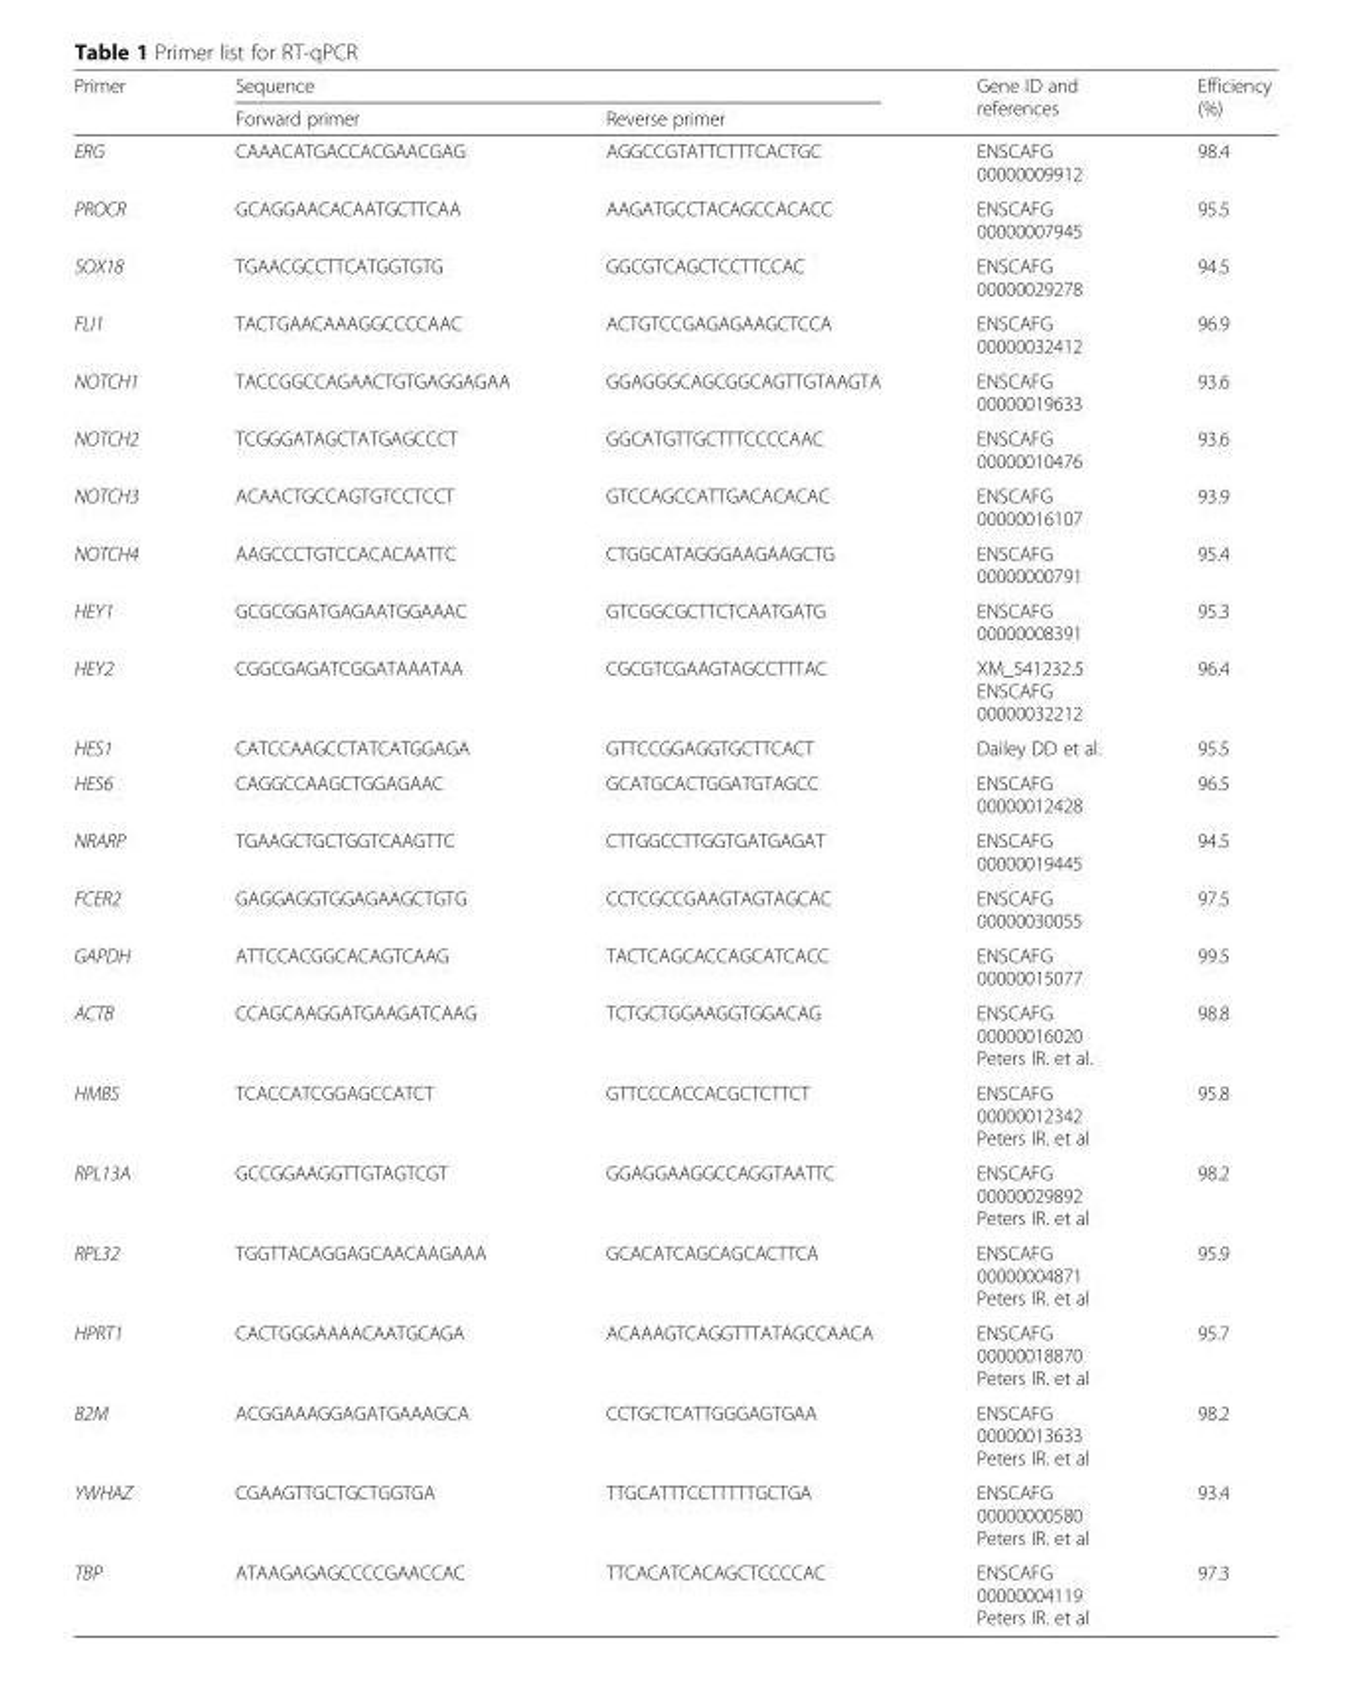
<table><thead><tr><td rowspan="2">Primer</td><td colspan="2">Sequence</td><td rowspan="2">Gene ID and references</td><td rowspan="2">Efficiency (%)</td></tr><tr><td>Forward primer</td><td>Reverse primer</td></tr></thead><tbody><tr><td>ERG</td><td>CAAACATGACCACGAACGAG</td><td>AGGCCGTATTCTTTCACTGC</td><td>ENSCAFG 00000009912</td><td>98.4</td></tr><tr><td>PROCR</td><td>GCAGGAACACAATGCTTCAA</td><td>AAGATGCCTACAGCCACACC</td><td>ENSCAFG 00000007945</td><td>95.5</td></tr><tr><td>SOX18</td><td>TGAACGCCTTCATGGTGTG</td><td>GGCGTCAGCTCCTTCCAC</td><td>ENSCAFG 00000029278</td><td>94.5</td></tr><tr><td>FLI1</td><td>TACTGAACAAAGGCCCCAAC</td><td>ACTGTCCGAGAGAAGCTCCA</td><td>ENSCAFG 00000032412</td><td>96.9</td></tr><tr><td>NOTCH1</td><td>TACCGGCCAGAACTGTGAGGAGAA</td><td>GGAGGGCAGCGGCAGTTGTAAGTA</td><td>ENSCAFG 00000019633</td><td>93.6</td></tr><tr><td>NOTCH2</td><td>TCGGGATAGCTATGAGCCCT</td><td>GGCATGTTGCTTTCCCCAAC</td><td>ENSCAFG 00000010476</td><td>93.6</td></tr><tr><td>NOTCH3</td><td>ACAACTGCCAGTGTCCTCCT</td><td>GTCCAGCCATTGACACACAC</td><td>ENSCAFG 00000016107</td><td>93.9</td></tr><tr><td>NOTCH4</td><td>AAGCCCTGTCCACACAATTC</td><td>CTGGCATAGGGAAGAAGCTG</td><td>ENSCAFG 00000000791</td><td>95.4</td></tr><tr><td>HEY1</td><td>GCGCGGATGAGAATGGAAAC</td><td>GTCGGCGCTTCTCAATGATG</td><td>ENSCAFG 00000008391</td><td>95.3</td></tr><tr><td>HEY2</td><td>CGGCGAGATCGGATAAATAA</td><td>CGCGTCGAAGTAGCCTTTAC</td><td>XM_541232.5 ENSCAFG 00000032212</td><td>96.4</td></tr><tr><td>HES1</td><td>CATCCAAGCCTATCATGGAGA</td><td>GTTCCGGAGGTGCTTCACT</td><td>Dailey DD et al.</td><td>95.5</td></tr><tr><td>HES6</td><td>CAGGCCAAGCTGGAGAAC</td><td>GCATGCACTGGATGTAGCC</td><td>ENSCAFG 00000012428</td><td>96.5</td></tr><tr><td>NRARP</td><td>TGAAGCTGCTGGTCAAGTTC</td><td>CTTGGCCTTGGTGATGAGAT</td><td>ENSCAFG 00000019445</td><td>94.5</td></tr><tr><td>FCER2</td><td>GAGGAGGTGGAGAAGCTGTG</td><td>CCTCGCCGAAGTAGTAGCAC</td><td>ENSCAFG 00000030055</td><td>97.5</td></tr><tr><td>GAPDH</td><td>ATTCCACGGCACAGTCAAG</td><td>TACTCAGCACCAGCATCACC</td><td>ENSCAFG 00000015077</td><td>99.5</td></tr><tr><td>ACTB</td><td>CCAGCAAGGATGAAGATCAAG</td><td>TCTGCTGGAAGGTGGACAG</td><td>ENSCAFG 00000016020 Peters IR. et al.</td><td>98.8</td></tr><tr><td>HMBS</td><td>TCACCATCGGAGCCATCT</td><td>GTTCCCACCACGCTCTTCT</td><td>ENSCAFG 00000012342 Peters IR. et al</td><td>95.8</td></tr><tr><td>RPL13A</td><td>GCCGGAAGGTTGTAGTCGT</td><td>GGAGGAAGGCCAGGTAATTC</td><td>ENSCAFG 00000029892 Peters IR. et al</td><td>98.2</td></tr><tr><td>RPL32</td><td>TGGTTACAGGAGCAACAAGAAA</td><td>GCACATCAGCAGCACTTCA</td><td>ENSCAFG 00000004871 Peters IR. et al</td><td>95.9</td></tr><tr><td>HPRT1</td><td>CACTGGGAAAACAATGCAGA</td><td>ACAAAGTCAGGTTTATAGCCAACA</td><td>ENSCAFG 00000018870 Peters IR. et al</td><td>95.7</td></tr><tr><td>B2M</td><td>ACGGAAAGGAGATGAAAGCA</td><td>CCTGCTCATTGGGAGTGAA</td><td>ENSCAFG 00000013633 Peters IR. et al</td><td>98.2</td></tr><tr><td>YWHAZ</td><td>CGAAGTTGCTGCTGGTGA</td><td>TTGCATTTCCTTTTTGCTGA</td><td>ENSCAFG 00000000580 Peters IR. et al</td><td>93.4</td></tr><tr><td>TBP</td><td>ATAAGAGAGCCCCGAACCAC</td><td>TTCACATCACAGCTCCCCAC</td><td>ENSCAFG 00000004119 Peters IR. et al</td><td>97.3</td></tr></tbody></table>